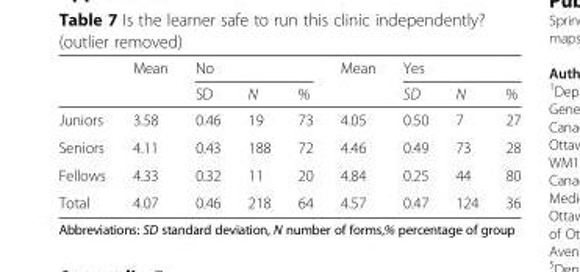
<table><thead><tr><td rowspan="2"></td><td rowspan="2">Mean</td><td colspan="3">No</td><td rowspan="2">Mean</td><td colspan="3">Yes</td></tr><tr><td>SD</td><td>N</td><td>%</td><td>SD</td><td>N</td><td>%</td></tr></thead><tbody><tr><td>Juniors</td><td>3.58</td><td>0.46</td><td>19</td><td>73</td><td>4.05</td><td>0.50</td><td>7</td><td>27</td></tr><tr><td>Seniors</td><td>4.11</td><td>0.43</td><td>188</td><td>72</td><td>4.46</td><td>0.49</td><td>73</td><td>28</td></tr><tr><td>Fellows</td><td>4.33</td><td>0.32</td><td>11</td><td>20</td><td>4.84</td><td>0.25</td><td>44</td><td>80</td></tr><tr><td>Total</td><td>4.07</td><td>0.46</td><td>218</td><td>64</td><td>4.57</td><td>0.47</td><td>124</td><td>36</td></tr></tbody></table>